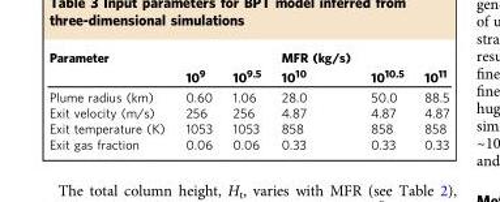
<table><thead><tr><td rowspan="2">Parameter</td><td rowspan="2">10<sup>9</sup></td><td rowspan="2">10<sup>9.5</sup></td><td rowspan="2">MFR (kg/s) 10<sup>10</sup></td><td rowspan="2">10<sup>10.5</sup></td><td rowspan="2">10<sup>11</sup></td></tr><tr></tr></thead><tbody><tr><td>Plume radius (km)</td><td>0.60</td><td>1.06</td><td>28.0</td><td>50.0</td><td>88.5</td></tr><tr><td>Exit velocity (m/s)</td><td>256</td><td>256</td><td>4.87</td><td>4.87</td><td>4.87</td></tr><tr><td>Exit temperature (K)</td><td>1053</td><td>1053</td><td>858</td><td>858</td><td>858</td></tr><tr><td>Exit gas fraction</td><td>0.06</td><td>0.06</td><td>0.33</td><td>0.33</td><td>0.33</td></tr></tbody></table>